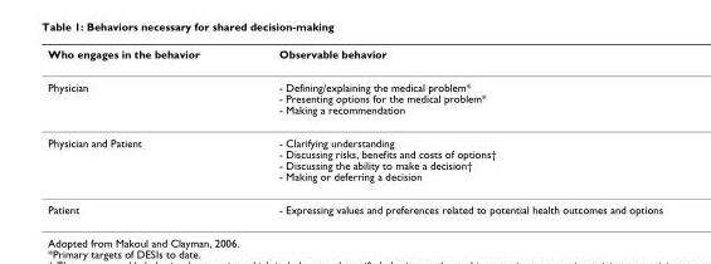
<table><thead><tr><td>Who engages in the behavior</td><td>Observable behavior</td></tr></thead><tbody><tr><td>Physician</td><td>- Defining/explaining the medical problem* - Presenting options for the medical problem* - Making a recommendation</td></tr><tr><td>Physician and Patient</td><td>- Clarifying understanding - Discussing risks, benefits and costs of options† - Discussing the ability to make a decision† - Making or deferring a decision</td></tr><tr><td>Patient</td><td>- Expressing values and preferences related to potential health outcomes and options</td></tr></tbody></table>